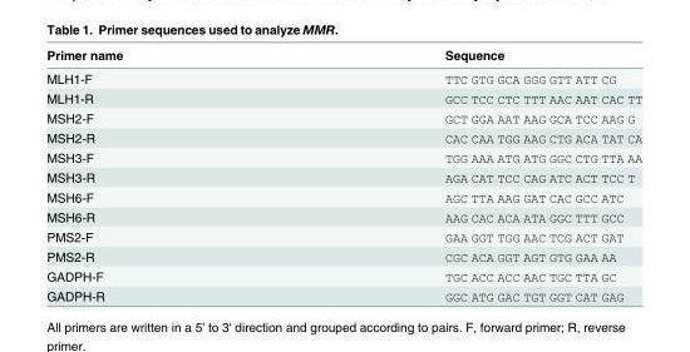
<table><thead><tr><td>Primer name</td><td>Sequence</td></tr></thead><tbody><tr><td>MLH1-F</td><td>TTC GTG GCA GGG GTT ATT CG</td></tr><tr><td>MLH1-R</td><td>GCC TCC CTC TTT AAC AAT CAC TT</td></tr><tr><td>MSH2-F</td><td>GCT GGA AAT AAG GCA TCC AAG G</td></tr><tr><td>MSH2-R</td><td>CAC CAA TGG AAG CTG ACA TAT CA</td></tr><tr><td>MSH3-F</td><td>TGG AAA ATG ATG GGC CTG TTA AA</td></tr><tr><td>MSH3-R</td><td>AGA CAT TCC CAG ATC ACT TCC T</td></tr><tr><td>MSH6-F</td><td>AGC TTA AAG GAT CAC GCC ATC</td></tr><tr><td>MSH6-R</td><td>AAG CAC ACA ATA GGC TTT GCC</td></tr><tr><td>PMS2-F</td><td>GAA GGT TGG AAC TCG ACT GAT</td></tr><tr><td>PMS2-R</td><td>CGC ACA GGT AGT GTG GAA AA</td></tr><tr><td>GADPH-F</td><td>TGC ACC ACC AAC TGC TTA GC</td></tr><tr><td>GADPH-R</td><td>GGC ATG GAC TGT GGT CAT GAG</td></tr></tbody></table>